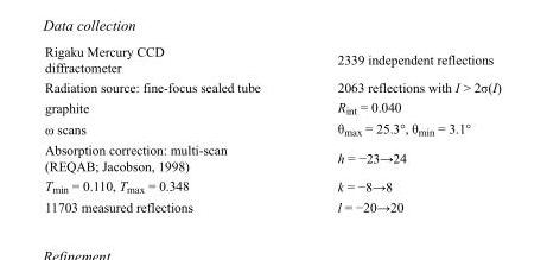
<table><tbody><tr><td>Rigaku Mercury CCD diffractometer</td><td>2339 independent reflections</td></tr><tr><td>Radiation source: fine-focus sealed tube</td><td>2063 reflections with I &gt; 2σ(I)</td></tr><tr><td>graphite</td><td>R<sub>int</sub> = 0.040</td></tr><tr><td>ω scans</td><td>θ<sub>max</sub> = 25.3°, θ<sub>min</sub> = 3.1°</td></tr><tr><td>Absorption correction: multi-scan (REQAB; Jacobson, 1998)</td><td>h = −23→24</td></tr><tr><td>T<sub>min</sub> = 0.110, T<sub>max</sub> = 0.348</td><td>k = −8→8</td></tr><tr><td>11703 measured reflections</td><td>l = −20→20</td></tr></tbody></table>